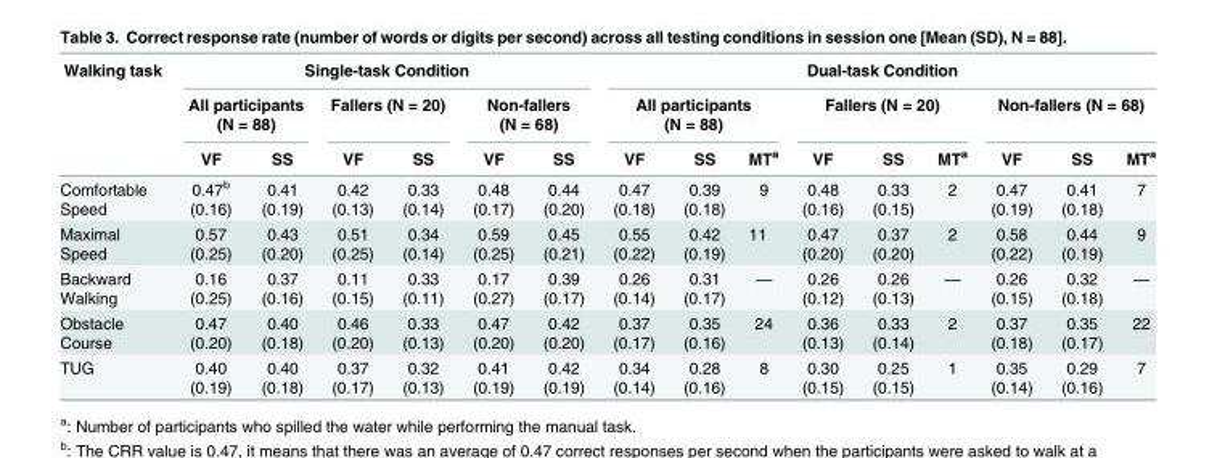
<table><thead><tr><td rowspan="3">Walking task</td><td colspan="6">Single-task Condition</td><td colspan="9">Dual-task Condition</td></tr><tr><td colspan="2">All participants (N = 88)</td><td colspan="2">Fallers (N = 20)</td><td colspan="2">Non-fallers (N = 68)</td><td colspan="3">All participants (N = 88)</td><td colspan="3">Fallers (N = 20)</td><td colspan="3">Non-fallers (N = 68)</td></tr><tr><td>VF</td><td>SS</td><td>VF</td><td>SS</td><td>VF</td><td>SS</td><td>VF</td><td>SS</td><td>MT<sup>a</sup></td><td>VF</td><td>SS</td><td>MT<sup>a</sup></td><td>VF</td><td>SS</td><td>MT<sup>a</sup></td></tr></thead><tbody><tr><td>Comfortable Speed</td><td>0.47<sup>b</sup> (0.16)</td><td>0.41 (0.19)</td><td>0.42 (0.13)</td><td>0.33 (0.14)</td><td>0.48 (0.17)</td><td>0.44 (0.20)</td><td>0.47 (0.18)</td><td>0.39 (0.18)</td><td>9</td><td>0.48 (0.16)</td><td>0.33 (0.15)</td><td>2</td><td>0.47 (0.19)</td><td>0.41 (0.18)</td><td>7</td></tr><tr><td>Maximal Speed</td><td>0.57 (0.25)</td><td>0.43 (0.20)</td><td>0.51 (0.25)</td><td>0.34 (0.14)</td><td>0.59 (0.25)</td><td>0.45 (0.21)</td><td>0.55 (0.22)</td><td>0.42 (0.19)</td><td>11</td><td>0.47 (0.20)</td><td>0.37 (0.20)</td><td>2</td><td>0.58 (0.22)</td><td>0.44 (0.19)</td><td>9</td></tr><tr><td>Backward Walking</td><td>0.16 (0.25)</td><td>0.37 (0.16)</td><td>0.11 (0.15)</td><td>0.33 (0.11)</td><td>0.17 (0.27)</td><td>0.39 (0.17)</td><td>0.26 (0.14)</td><td>0.31 (0.17)</td><td>—</td><td>0.26 (0.12)</td><td>0.26 (0.13)</td><td>—</td><td>0.26 (0.15)</td><td>0.32 (0.18)</td><td>—</td></tr><tr><td>Obstacle Course</td><td>0.47 (0.20)</td><td>0.40 (0.18)</td><td>0.46 (0.20)</td><td>0.33 (0.13)</td><td>0.47 (0.20)</td><td>0.42 (0.20)</td><td>0.37 (0.17)</td><td>0.35 (0.16)</td><td>24</td><td>0.36 (0.13)</td><td>0.33 (0.14)</td><td>2</td><td>0.37 (0.18)</td><td>0.35 (0.17)</td><td>22</td></tr><tr><td>TUG</td><td>0.40 (0.19)</td><td>0.40 (0.18)</td><td>0.37 (0.17)</td><td>0.32 (0.13)</td><td>0.41 (0.19)</td><td>0.42 (0.19)</td><td>0.34 (0.14)</td><td>0.28 (0.16)</td><td>8</td><td>0.30 (0.15)</td><td>0.25 (0.15)</td><td>1</td><td>0.35 (0.14)</td><td>0.29 (0.16)</td><td>7</td></tr></tbody></table>